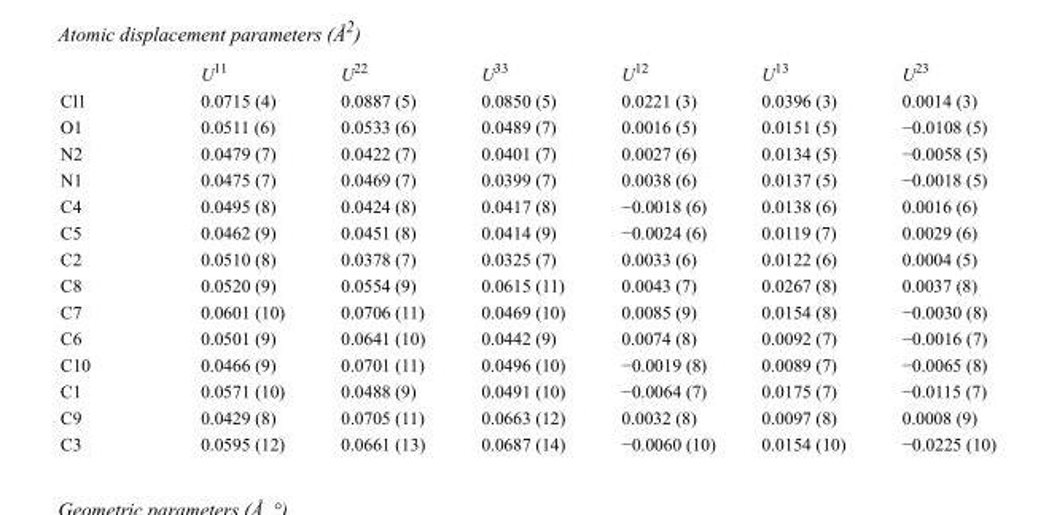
<table><thead><tr><td></td><td>U<sup>11</sup></td><td>U<sup>22</sup></td><td>U<sup>33</sup></td><td>U<sup>12</sup></td><td>U<sup>13</sup></td><td>U<sup>23</sup></td></tr></thead><tbody><tr><td>Cl1</td><td>0.0715 (4)</td><td>0.0887 (5)</td><td>0.0850 (5)</td><td>0.0221 (3)</td><td>0.0396 (3)</td><td>0.0014 (3)</td></tr><tr><td>O1</td><td>0.0511 (6)</td><td>0.0533 (6)</td><td>0.0489 (7)</td><td>0.0016 (5)</td><td>0.0151 (5)</td><td>−0.0108 (5)</td></tr><tr><td>N2</td><td>0.0479 (7)</td><td>0.0422 (7)</td><td>0.0401 (7)</td><td>0.0027 (6)</td><td>0.0134 (5)</td><td>−0.0058 (5)</td></tr><tr><td>N1</td><td>0.0475 (7)</td><td>0.0469 (7)</td><td>0.0399 (7)</td><td>0.0038 (6)</td><td>0.0137 (5)</td><td>−0.0018 (5)</td></tr><tr><td>C4</td><td>0.0495 (8)</td><td>0.0424 (8)</td><td>0.0417 (8)</td><td>−0.0018 (6)</td><td>0.0138 (6)</td><td>0.0016 (6)</td></tr><tr><td>C5</td><td>0.0462 (9)</td><td>0.0451 (8)</td><td>0.0414 (9)</td><td>−0.0024 (6)</td><td>0.0119 (7)</td><td>0.0029 (6)</td></tr><tr><td>C2</td><td>0.0510 (8)</td><td>0.0378 (7)</td><td>0.0325 (7)</td><td>0.0033 (6)</td><td>0.0122 (6)</td><td>0.0004 (5)</td></tr><tr><td>C8</td><td>0.0520 (9)</td><td>0.0554 (9)</td><td>0.0615 (11)</td><td>0.0043 (7)</td><td>0.0267 (8)</td><td>0.0037 (8)</td></tr><tr><td>C7</td><td>0.0601 (10)</td><td>0.0706 (11)</td><td>0.0469 (10)</td><td>0.0085 (9)</td><td>0.0154 (8)</td><td>−0.0030 (8)</td></tr><tr><td>C6</td><td>0.0501 (9)</td><td>0.0641 (10)</td><td>0.0442 (9)</td><td>0.0074 (8)</td><td>0.0092 (7)</td><td>−0.0016 (7)</td></tr><tr><td>C10</td><td>0.0466 (9)</td><td>0.0701 (11)</td><td>0.0496 (10)</td><td>−0.0019 (8)</td><td>0.0089 (7)</td><td>−0.0065 (8)</td></tr><tr><td>C1</td><td>0.0571 (10)</td><td>0.0488 (9)</td><td>0.0491 (10)</td><td>−0.0064 (7)</td><td>0.0175 (7)</td><td>−0.0115 (7)</td></tr><tr><td>C9</td><td>0.0429 (8)</td><td>0.0705 (11)</td><td>0.0663 (12)</td><td>0.0032 (8)</td><td>0.0097 (8)</td><td>0.0008 (9)</td></tr><tr><td>C3</td><td>0.0595 (12)</td><td>0.0661 (13)</td><td>0.0687 (14)</td><td>−0.0060 (10)</td><td>0.0154 (10)</td><td>−0.0225 (10)</td></tr></tbody></table>